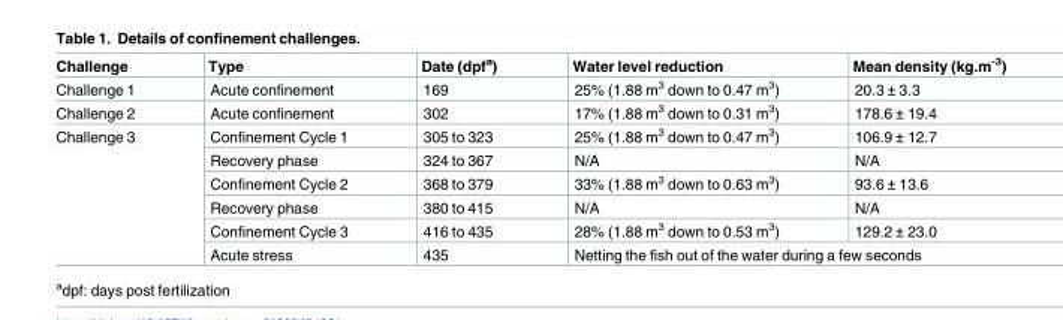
<table><thead><tr><td>Challenge</td><td>Type</td><td>Date (dpf<sup>a</sup>)</td><td>Water level reduction</td><td>Mean density (kg.m<sup>-3</sup>)</td></tr></thead><tbody><tr><td>Challenge 1</td><td>Acute confinement</td><td>169</td><td>25% (1.88 m<sup>3</sup> down to 0.47 m<sup>3</sup>)</td><td>20.3 ± 3.3</td></tr><tr><td>Challenge 2</td><td>Acute confinement</td><td>302</td><td>17% (1.88 m<sup>3</sup> down to 0.31 m<sup>3</sup>)</td><td>178.6 ± 19.4</td></tr><tr><td rowspan="6">Challenge 3</td><td>Confinement Cycle 1</td><td>305 to 323</td><td>25% (1.88 m<sup>3</sup> down to 0.47 m<sup>3</sup>)</td><td>106.9 ± 12.7</td></tr><tr><td>Recovery phase</td><td>324 to 367</td><td>N/A</td><td>N/A</td></tr><tr><td>Confinement Cycle 2</td><td>368 to 379</td><td>33% (1.88 m<sup>3</sup> down to 0.63 m<sup>3</sup>)</td><td>93.6 ± 13.6</td></tr><tr><td>Recovery phase</td><td>380 to 415</td><td>N/A</td><td>N/A</td></tr><tr><td>Confinement Cycle 3</td><td>416 to 435</td><td>28% (1.88 m<sup>3</sup> down to 0.53 m<sup>3</sup>)</td><td>129.2 ± 23.0</td></tr><tr><td>Acute stress</td><td>435</td><td colspan="2">Netting the fish out of the water during a few seconds</td></tr></tbody></table>